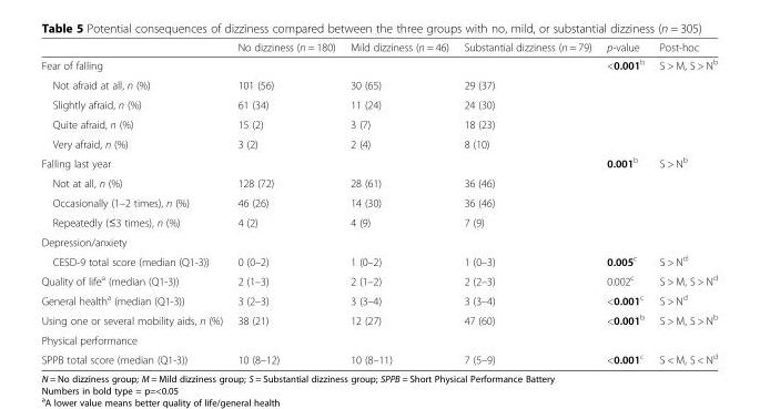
<table><thead><tr><td></td><td>No dizziness (n = 180)</td><td>Mild dizziness (n = 46)</td><td>Substantial dizziness (n = 79)</td><td>p-value</td><td>Post-hoc</td></tr></thead><tbody><tr><td>Fear of falling</td><td></td><td></td><td></td><td>&lt;0.001<sup>b</sup></td><td>S &gt; M, S &gt; N<sup>b</sup></td></tr><tr><td>Not afraid at all, n (%)</td><td>101 (56)</td><td>30 (65)</td><td>29 (37)</td><td></td><td></td></tr><tr><td>Slightly afraid, n (%)</td><td>61 (34)</td><td>11 (24)</td><td>24 (30)</td><td></td><td></td></tr><tr><td>Quite afraid, n (%)</td><td>15 (2)</td><td>3 (7)</td><td>18 (23)</td><td></td><td></td></tr><tr><td>Very afraid, n (%)</td><td>3 (2)</td><td>2 (4)</td><td>8 (10)</td><td></td><td></td></tr><tr><td>Falling last year</td><td></td><td></td><td></td><td>0.001<sup>b</sup></td><td>S &gt; N<sup>b</sup></td></tr><tr><td>Not at all, n (%)</td><td>128 (72)</td><td>28 (61)</td><td>36 (46)</td><td></td><td></td></tr><tr><td>Occasionally (1–2 times), n (%)</td><td>46 (26)</td><td>14 (30)</td><td>36 (46)</td><td></td><td></td></tr><tr><td>Repeatedly (≤3 times), n (%)</td><td>4 (2)</td><td>4 (9)</td><td>7 (9)</td><td></td><td></td></tr><tr><td colspan="6">Depression/anxiety</td></tr><tr><td>CESD-9 total score (median (Q1-3))</td><td>0 (0–2)</td><td>1 (0–2)</td><td>1 (0–3)</td><td>0.005<sup>c</sup></td><td>S &gt; N<sup>d</sup></td></tr><tr><td>Quality of life<sup>a</sup> (median (Q1-3))</td><td>2 (1–3)</td><td>2 (1–2)</td><td>2 (2–3)</td><td>0.002<sup>c</sup></td><td>S &gt; M, S &gt; N<sup>d</sup></td></tr><tr><td>General health<sup>a</sup> (median (Q1-3))</td><td>3 (2–3)</td><td>3 (3–4)</td><td>3 (3–4)</td><td>&lt;0.001<sup>c</sup></td><td>S &gt; N<sup>d</sup></td></tr><tr><td>Using one or several mobility aids, n (%)</td><td>38 (21)</td><td>12 (27)</td><td>47 (60)</td><td>&lt;0.001<sup>b</sup></td><td>S &gt; M, S &gt; N<sup>b</sup></td></tr><tr><td colspan="6">Physical performance</td></tr><tr><td>SPPB total score (median (Q1-3))</td><td>10 (8–12)</td><td>10 (8–11)</td><td>7 (5–9)</td><td>&lt;0.001<sup>c</sup></td><td>S &lt; M, S &lt; N<sup>d</sup></td></tr></tbody></table>